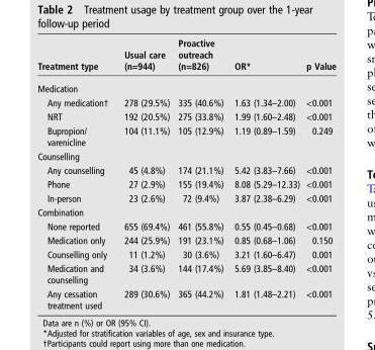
<table><thead><tr><td>Treatment type</td><td>Usual care (n=944)</td><td>Proactive outreach (n=826)</td><td>OR*</td><td>p Value</td></tr></thead><tbody><tr><td colspan="5">Medication</td></tr><tr><td>Any medication†</td><td>278 (29.5%)</td><td>335 (40.6%)</td><td>1.63 (1.34–2.00)</td><td>&lt;0.001</td></tr><tr><td>NRT</td><td>192 (20.5%)</td><td>275 (33.8%)</td><td>1.99 (1.60–2.48)</td><td>&lt;0.001</td></tr><tr><td>Bupropion/ varenicline</td><td>104 (11.1%)</td><td>105 (12.9%)</td><td>1.19 (0.89–1.59)</td><td>0.249</td></tr><tr><td colspan="5">Counselling</td></tr><tr><td>Any counselling</td><td>45 (4.8%)</td><td>174 (21.1%)</td><td>5.42 (3.83–7.66)</td><td>&lt;0.001</td></tr><tr><td>Phone</td><td>27 (2.9%)</td><td>155 (19.4%)</td><td>8.08 (5.29–12.33)</td><td>&lt;0.001</td></tr><tr><td>In-person</td><td>23 (2.6%)</td><td>72 (9.4%)</td><td>3.87 (2.38–6.29)</td><td>&lt;0.001</td></tr><tr><td colspan="5">Combination</td></tr><tr><td>None reported</td><td>655 (69.4%)</td><td>461 (55.8%)</td><td>0.55 (0.45–0.68)</td><td>&lt;0.001</td></tr><tr><td>Medication only</td><td>244 (25.9%)</td><td>191 (23.1%)</td><td>0.85 (0.68–1.06)</td><td>0.150</td></tr><tr><td>Counselling only</td><td>11 (1.2%)</td><td>30 (3.6%)</td><td>3.21 (1.60–6.47)</td><td>0.001</td></tr><tr><td>Medication and counselling</td><td>34 (3.6%)</td><td>144 (17.4%)</td><td>5.69 (3.85–8.40)</td><td>&lt;0.001</td></tr><tr><td>Any cessation treatment used</td><td>289 (30.6%)</td><td>365 (44.2%)</td><td>1.81 (1.48–2.21)</td><td>&lt;0.001</td></tr></tbody></table>